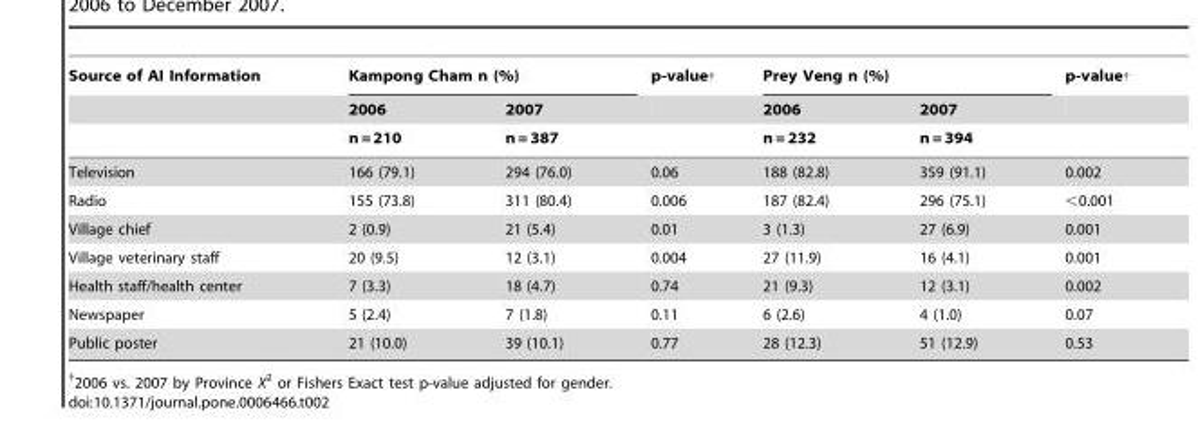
<table><thead><tr><td rowspan="3">Source of AI Information</td><td colspan="2">Kampong Cham n (%)</td><td rowspan="3">p-value†</td><td colspan="2">Prey Veng n (%)</td><td rowspan="3">p-value†</td></tr><tr><td rowspan="2">2006 n = 210</td><td rowspan="2">2007 n = 387</td><td rowspan="2">2006 n = 232</td><td rowspan="2">2007 n = 394</td></tr><tr></tr></thead><tbody><tr><td>Television</td><td>166 (79.1)</td><td>294 (76.0)</td><td>0.06</td><td>188 (82.8)</td><td>359 (91.1)</td><td>0.002</td></tr><tr><td>Radio</td><td>155 (73.8)</td><td>311 (80.4)</td><td>0.006</td><td>187 (82.4)</td><td>296 (75.1)</td><td>&lt;0.001</td></tr><tr><td>Village chief</td><td>2 (0.9)</td><td>21 (5.4)</td><td>0.01</td><td>3 (1.3)</td><td>27 (6.9)</td><td>0.001</td></tr><tr><td>Village veterinary staff</td><td>20 (9.5)</td><td>12 (3.1)</td><td>0.004</td><td>27 (11.9)</td><td>16 (4.1)</td><td>0.001</td></tr><tr><td>Health staff/health center</td><td>7 (3.3)</td><td>18 (4.7)</td><td>0.74</td><td>21 (9.3)</td><td>12 (3.1)</td><td>0.002</td></tr><tr><td>Newspaper</td><td>5 (2.4)</td><td>7 (1.8)</td><td>0.11</td><td>6 (2.6)</td><td>4 (1.0)</td><td>0.07</td></tr><tr><td>Public poster</td><td>21 (10.0)</td><td>39 (10.1)</td><td>0.77</td><td>28 (12.3)</td><td>51 (12.9)</td><td>0.53</td></tr></tbody></table>